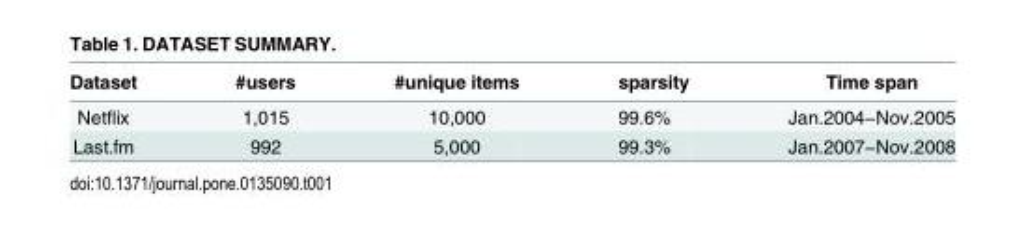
<table><thead><tr><td>Dataset</td><td>#users</td><td>#unique items</td><td>sparsity</td><td>Time span</td></tr></thead><tbody><tr><td>Netflix</td><td>1,015</td><td>10,000</td><td>99.6%</td><td>Jan.2004−Nov.2005</td></tr><tr><td>Last.fm</td><td>992</td><td>5,000</td><td>99.3%</td><td>Jan.2007−Nov.2008</td></tr></tbody></table>